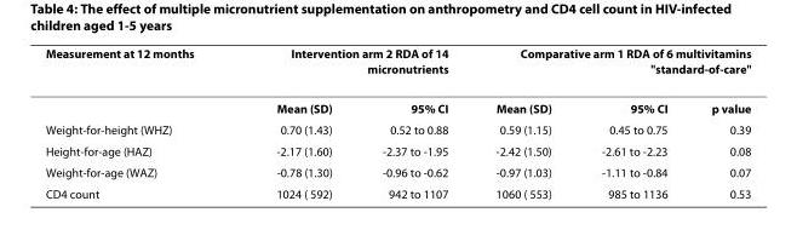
<table><thead><tr><td rowspan="2">Measurement at 12 months</td><td colspan="2">Intervention arm 2 RDA of 14 micronutrients</td><td colspan="3">Comparative arm 1 RDA of 6 multivitamins &quot;standard-of-care&quot;</td></tr><tr><td>Mean (SD)</td><td>95% CI</td><td>Mean (SD)</td><td>95% CI</td><td>p value</td></tr></thead><tbody><tr><td>Weight-for-height (WHZ)</td><td>0.70 (1.43)</td><td>0.52 to 0.88</td><td>0.59 (1.15)</td><td>0.45 to 0.75</td><td>0.39</td></tr><tr><td>Height-for-age (HAZ)</td><td>-2.17 (1.60)</td><td>-2.37 to -1.95</td><td>-2.42 (1.50)</td><td>-2.61 to -2.23</td><td>0.08</td></tr><tr><td>Weight-for-age (WAZ)</td><td>-0.78 (1.30)</td><td>-0.96 to -0.62</td><td>-0.97 (1.03)</td><td>-1.11 to -0.84</td><td>0.07</td></tr><tr><td>CD4 count</td><td>1024 ( 592)</td><td>942 to 1107</td><td>1060 ( 553)</td><td>985 to 1136</td><td>0.53</td></tr></tbody></table>